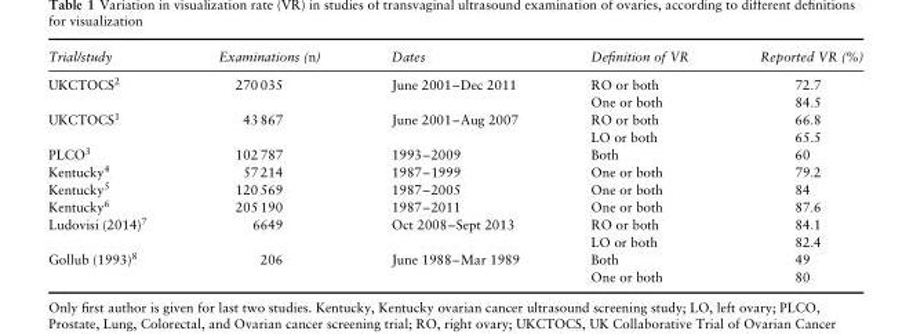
<table><thead><tr><td>Trial/study</td><td>Examinations (n)</td><td>Dates</td><td>Definition of VR</td><td>Reported VR (%)</td></tr></thead><tbody><tr><td rowspan="2">UKCTOCS<sup>2</sup></td><td rowspan="2">270 035</td><td rowspan="2">June 2001–Dec 2011</td><td>RO or both</td><td>72.7</td></tr><tr><td>One or both</td><td>84.5</td></tr><tr><td rowspan="2">UKCTOCS<sup>1</sup></td><td rowspan="2">43 867</td><td rowspan="2">June 2001–Aug 2007</td><td>RO or both</td><td>66.8</td></tr><tr><td>LO or both</td><td>65.5</td></tr><tr><td>PLCO<sup>3</sup></td><td>102 787</td><td>1993–2009</td><td>Both</td><td>60</td></tr><tr><td>Kentucky<sup>4</sup></td><td>57 214</td><td>1987–1999</td><td>One or both</td><td>79.2</td></tr><tr><td>Kentucky<sup>5</sup></td><td>120 569</td><td>1987–2005</td><td>One or both</td><td>84</td></tr><tr><td>Kentucky<sup>6</sup></td><td>205 190</td><td>1987–2011</td><td>One or both</td><td>87.6</td></tr><tr><td rowspan="2">Ludovisi (2014)<sup>7</sup></td><td rowspan="2">6649</td><td rowspan="2">Oct 2008–Sept 2013</td><td>RO or both</td><td>84.1</td></tr><tr><td>LO or both</td><td>82.4</td></tr><tr><td rowspan="2">Gollub (1993)<sup>8</sup></td><td rowspan="2">206</td><td rowspan="2">June 1988–Mar 1989</td><td>Both</td><td>49</td></tr><tr><td>One or both</td><td>80</td></tr></tbody></table>